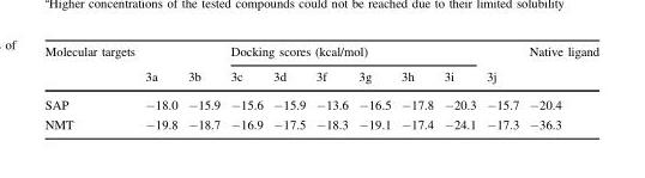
<table><thead><tr><td rowspan="2">Molecular targets</td><td rowspan="2">3a</td><td rowspan="2">3b</td><td colspan="6">Docking scores (kcal/mol)</td><td rowspan="2">3j</td><td rowspan="2">Native ligand</td></tr><tr><td>3c</td><td>3d</td><td>3f</td><td>3g</td><td>3h</td><td>3i</td></tr></thead><tbody><tr><td>SAP</td><td>−18.0</td><td>−15.9</td><td>−15.6</td><td>−15.9</td><td>−13.6</td><td>−16.5</td><td>−17.8</td><td>−20.3</td><td>−15.7</td><td>−20.4</td></tr><tr><td>NMT</td><td>−19.8</td><td>−18.7</td><td>−16.9</td><td>−17.5</td><td>−18.3</td><td>−19.1</td><td>−17.4</td><td>−24.1</td><td>−17.3</td><td>−36.3</td></tr></tbody></table>